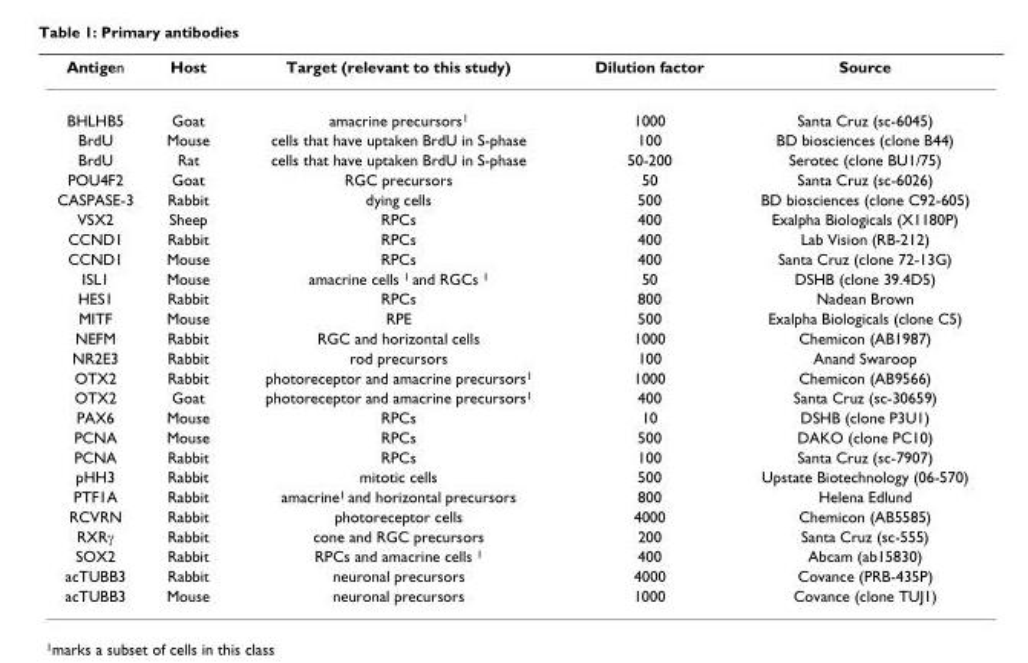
<table><thead><tr><td>Antigen</td><td>Host</td><td>Target (relevant to this study)</td><td>Dilution factor</td><td>Source</td></tr></thead><tbody><tr><td>BHLHB5</td><td>Goat</td><td>amacrine precursors<sup>1</sup></td><td>1000</td><td>Santa Cruz (sc-6045)</td></tr><tr><td>BrdU</td><td>Mouse</td><td>cells that have uptaken BrdU in S-phase</td><td>100</td><td>BD biosciences (clone B44)</td></tr><tr><td>BrdU</td><td>Rat</td><td>cells that have uptaken BrdU in S-phase</td><td>50-200</td><td>Serotec (clone BU1/75)</td></tr><tr><td>POU4F2</td><td>Goat</td><td>RGC precursors</td><td>50</td><td>Santa Cruz (sc-6026)</td></tr><tr><td>CASPASE-3</td><td>Rabbit</td><td>dying cells</td><td>500</td><td>BD biosciences (clone C92-605)</td></tr><tr><td>VSX2</td><td>Sheep</td><td>RPCs</td><td>400</td><td>Exalpha Biologicals (X1180P)</td></tr><tr><td>CCND1</td><td>Rabbit</td><td>RPCs</td><td>400</td><td>Lab Vision (RB-212)</td></tr><tr><td>CCND1</td><td>Mouse</td><td>RPCs</td><td>400</td><td>Santa Cruz (clone 72-13G)</td></tr><tr><td>ISL1</td><td>Mouse</td><td>amacrine cells <sup>1</sup> and RGCs <sup>1</sup></td><td>50</td><td>DSHB (clone 39.4D5)</td></tr><tr><td>HES1</td><td>Rabbit</td><td>RPCs</td><td>800</td><td>Nadean Brown</td></tr><tr><td>MITF</td><td>Mouse</td><td>RPE</td><td>500</td><td>Exalpha Biologicals (clone C5)</td></tr><tr><td>NEFM</td><td>Rabbit</td><td>RGC and horizontal cells</td><td>1000</td><td>Chemicon (AB1987)</td></tr><tr><td>NR2E3</td><td>Rabbit</td><td>rod precursors</td><td>100</td><td>Anand Swaroop</td></tr><tr><td>OTX2</td><td>Rabbit</td><td>photoreceptor and amacrine precursors<sup>1</sup></td><td>1000</td><td>Chemicon (AB9566)</td></tr><tr><td>OTX2</td><td>Goat</td><td>photoreceptor and amacrine precursors<sup>1</sup></td><td>400</td><td>Santa Cruz (sc-30659)</td></tr><tr><td>PAX6</td><td>Mouse</td><td>RPCs</td><td>10</td><td>DSHB (clone P3U1)</td></tr><tr><td>PCNA</td><td>Mouse</td><td>RPCs</td><td>500</td><td>DAKO (clone PC10)</td></tr><tr><td>PCNA</td><td>Rabbit</td><td>RPCs</td><td>100</td><td>Santa Cruz (sc-7907)</td></tr><tr><td>pHH3</td><td>Rabbit</td><td>mitotic cells</td><td>500</td><td>Upstate Biotechnology (06-570)</td></tr><tr><td>PTF1A</td><td>Rabbit</td><td>amacrine<sup>1</sup> and horizontal precursors</td><td>800</td><td>Helena Edlund</td></tr><tr><td>RCVRN</td><td>Rabbit</td><td>photoreceptor cells</td><td>4000</td><td>Chemicon (AB5585)</td></tr><tr><td>RXRγ</td><td>Rabbit</td><td>cone and RGC precursors</td><td>200</td><td>Santa Cruz (sc-555)</td></tr><tr><td>SOX2</td><td>Rabbit</td><td>RPCs and amacrine cells <sup>1</sup></td><td>400</td><td>Abcam (ab15830)</td></tr><tr><td>acTUBB3</td><td>Rabbit</td><td>neuronal precursors</td><td>4000</td><td>Covance (PRB-435P)</td></tr><tr><td>acTUBB3</td><td>Mouse</td><td>neuronal precursors</td><td>1000</td><td>Covance (clone TUJ1)</td></tr></tbody></table>